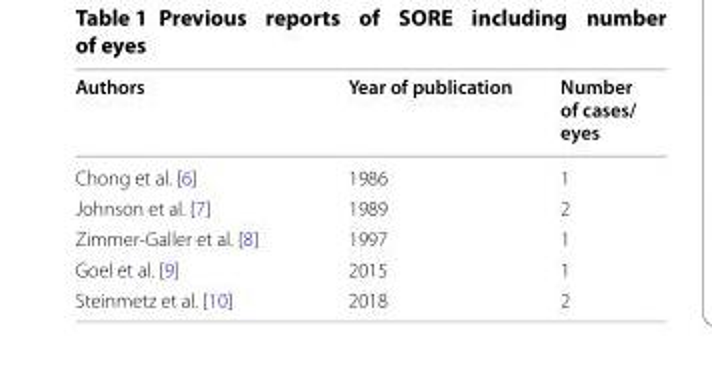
<table><thead><tr><td>Authors</td><td>Year of publication</td><td>Number of cases/ eyes</td></tr></thead><tbody><tr><td>Chong et al. [6]</td><td>1986</td><td>1</td></tr><tr><td>Johnson et al. [7]</td><td>1989</td><td>2</td></tr><tr><td>Zimmer-Galler et al. [8]</td><td>1997</td><td>1</td></tr><tr><td>Goel et al. [9]</td><td>2015</td><td>1</td></tr><tr><td>Steinmetz et al. [10]</td><td>2018</td><td>2</td></tr></tbody></table>